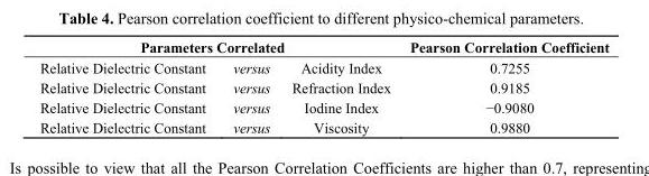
<table><thead><tr><td colspan="3">Parameters Correlated</td><td rowspan="2">Pearson Correlation Coefficient 0.7255</td></tr><tr><td>Relative Dielectric Constant</td><td>versus</td><td>Acidity Index</td></tr></thead><tbody><tr><td>Relative Dielectric Constant</td><td>versus</td><td>Refraction Index</td><td>0.9185</td></tr><tr><td>Relative Dielectric Constant</td><td>versus</td><td>Iodine Index</td><td>−0.9080</td></tr><tr><td>Relative Dielectric Constant</td><td>versus</td><td>Viscosity</td><td>0.9880</td></tr></tbody></table>